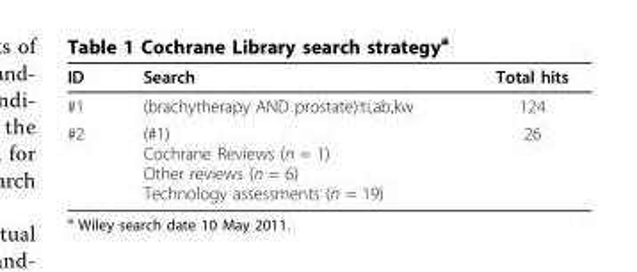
<table><thead><tr><td>ID</td><td>Search</td><td>Total hits</td></tr></thead><tbody><tr><td>#1</td><td>(brachytherapy AND prostate):ti,ab,kw</td><td>124</td></tr><tr><td>#2</td><td>(#1) Cochrane Reviews (n = 1) Other reviews (n = 6) Technology assessments (n = 19)</td><td>26</td></tr></tbody></table>